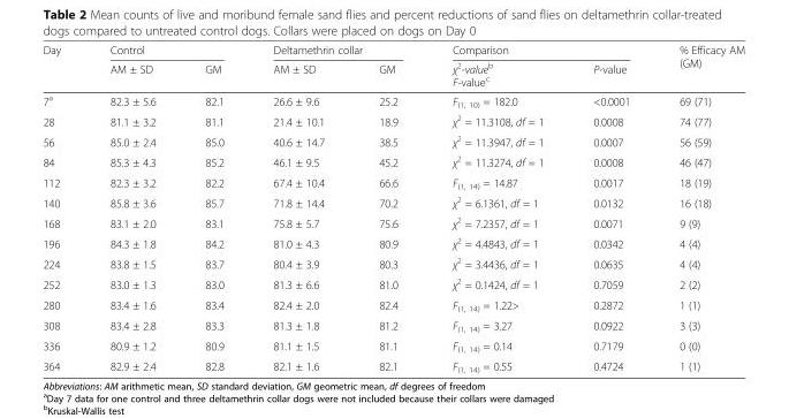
<table><thead><tr><td rowspan="2">Day</td><td colspan="2">Control</td><td colspan="2">Deltamethrin collar</td><td colspan="2">Comparison</td><td rowspan="2">% Efficacy AM (GM)</td></tr><tr><td>AM ± SD</td><td>GM</td><td>AM ± SD</td><td>GM</td><td>χ<sup>2</sup>-value<sup>b</sup> F-value<sup>c</sup></td><td>P-value</td></tr></thead><tbody><tr><td>7<sup>a</sup></td><td>82.3 ± 5.6</td><td>82.1</td><td>26.6 ± 9.6</td><td>25.2</td><td>F<sub>(1, 10)</sub> = 182.0</td><td>&lt;0.0001</td><td>69 (71)</td></tr><tr><td>28</td><td>81.1 ± 3.2</td><td>81.1</td><td>21.4 ± 10.1</td><td>18.9</td><td>χ<sup>2</sup> = 11.3108, df = 1</td><td>0.0008</td><td>74 (77)</td></tr><tr><td>56</td><td>85.0 ± 2.4</td><td>85.0</td><td>40.6 ± 14.7</td><td>38.5</td><td>χ<sup>2</sup> = 11.3947, df = 1</td><td>0.0007</td><td>56 (59)</td></tr><tr><td>84</td><td>85.3 ± 4.3</td><td>85.2</td><td>46.1 ± 9.5</td><td>45.2</td><td>χ<sup>2</sup> = 11.3274, df = 1</td><td>0.0008</td><td>46 (47)</td></tr><tr><td>112</td><td>82.3 ± 3.2</td><td>82.2</td><td>67.4 ± 10.4</td><td>66.6</td><td>F<sub>(1, 14)</sub> = 14.87</td><td>0.0017</td><td>18 (19)</td></tr><tr><td>140</td><td>85.8 ± 3.6</td><td>85.7</td><td>71.8 ± 14.4</td><td>70.2</td><td>χ<sup>2</sup> = 6.1361, df = 1</td><td>0.0132</td><td>16 (18)</td></tr><tr><td>168</td><td>83.1 ± 2.0</td><td>83.1</td><td>75.8 ± 5.7</td><td>75.6</td><td>χ<sup>2</sup> = 7.2357, df = 1</td><td>0.0071</td><td>9 (9)</td></tr><tr><td>196</td><td>84.3 ± 1.8</td><td>84.2</td><td>81.0 ± 4.3</td><td>80.9</td><td>χ<sup>2</sup> = 4.4843, df = 1</td><td>0.0342</td><td>4 (4)</td></tr><tr><td>224</td><td>83.8 ± 1.5</td><td>83.7</td><td>80.4 ± 3.9</td><td>80.3</td><td>χ<sup>2</sup> = 3.4436, df = 1</td><td>0.0635</td><td>4 (4)</td></tr><tr><td>252</td><td>83.0 ± 1.3</td><td>83.0</td><td>81.3 ± 6.6</td><td>81.0</td><td>χ<sup>2</sup> = 0.1424, df = 1</td><td>0.7059</td><td>2 (2)</td></tr><tr><td>280</td><td>83.4 ± 1.6</td><td>83.4</td><td>82.4 ± 2.0</td><td>82.4</td><td>F<sub>(1, 14)</sub> = 1.22&gt;</td><td>0.2872</td><td>1 (1)</td></tr><tr><td>308</td><td>83.4 ± 2.8</td><td>83.3</td><td>81.3 ± 1.8</td><td>81.2</td><td>F<sub>(1, 14)</sub> = 3.27</td><td>0.0922</td><td>3 (3)</td></tr><tr><td>336</td><td>80.9 ± 1.2</td><td>80.9</td><td>81.1 ± 1.5</td><td>81.1</td><td>F<sub>(1, 14)</sub> = 0.14</td><td>0.7179</td><td>0 (0)</td></tr><tr><td>364</td><td>82.9 ± 2.4</td><td>82.8</td><td>82.1 ± 1.6</td><td>82.1</td><td>F<sub>(1, 14)</sub> = 0.55</td><td>0.4724</td><td>1 (1)</td></tr></tbody></table>